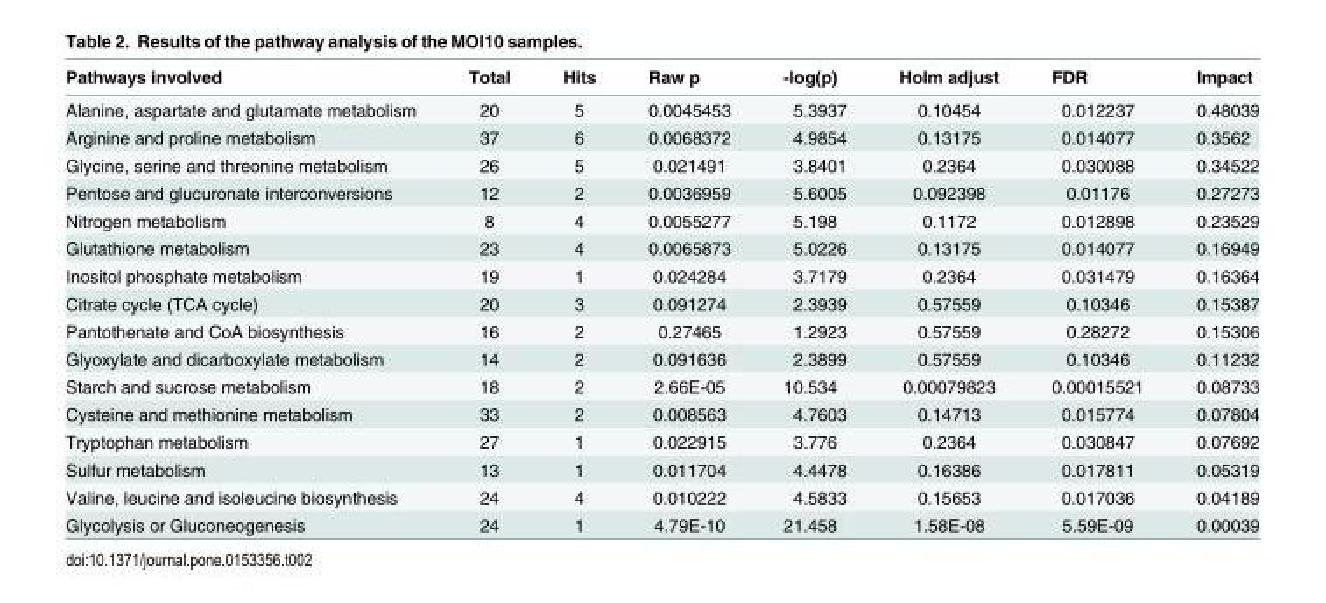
<table><thead><tr><td>Pathways involved</td><td>Total</td><td>Hits</td><td>Raw p</td><td>-log(p)</td><td>Holm adjust</td><td>FDR</td><td>Impact</td></tr></thead><tbody><tr><td>Alanine, aspartate and glutamate metabolism</td><td>20</td><td>5</td><td>0.0045453</td><td>5.3937</td><td>0.10454</td><td>0.012237</td><td>0.48039</td></tr><tr><td>Arginine and proline metabolism</td><td>37</td><td>6</td><td>0.0068372</td><td>4.9854</td><td>0.13175</td><td>0.014077</td><td>0.3562</td></tr><tr><td>Glycine, serine and threonine metabolism</td><td>26</td><td>5</td><td>0.021491</td><td>3.8401</td><td>0.2364</td><td>0.030088</td><td>0.34522</td></tr><tr><td>Pentose and glucuronate interconversions</td><td>12</td><td>2</td><td>0.0036959</td><td>5.6005</td><td>0.092398</td><td>0.01176</td><td>0.27273</td></tr><tr><td>Nitrogen metabolism</td><td>8</td><td>4</td><td>0.0055277</td><td>5.198</td><td>0.1172</td><td>0.012898</td><td>0.23529</td></tr><tr><td>Glutathione metabolism</td><td>23</td><td>4</td><td>0.0065873</td><td>5.0226</td><td>0.13175</td><td>0.014077</td><td>0.16949</td></tr><tr><td>Inositol phosphate metabolism</td><td>19</td><td>1</td><td>0.024284</td><td>3.7179</td><td>0.2364</td><td>0.031479</td><td>0.16364</td></tr><tr><td>Citrate cycle (TCA cycle)</td><td>20</td><td>3</td><td>0.091274</td><td>2.3939</td><td>0.57559</td><td>0.10346</td><td>0.15387</td></tr><tr><td>Pantothenate and CoA biosynthesis</td><td>16</td><td>2</td><td>0.27465</td><td>1.2923</td><td>0.57559</td><td>0.28272</td><td>0.15306</td></tr><tr><td>Glyoxylate and dicarboxylate metabolism</td><td>14</td><td>2</td><td>0.091636</td><td>2.3899</td><td>0.57559</td><td>0.10346</td><td>0.11232</td></tr><tr><td>Starch and sucrose metabolism</td><td>18</td><td>2</td><td>2.66E-05</td><td>10.534</td><td>0.00079823</td><td>0.00015521</td><td>0.08733</td></tr><tr><td>Cysteine and methionine metabolism</td><td>33</td><td>2</td><td>0.008563</td><td>4.7603</td><td>0.14713</td><td>0.015774</td><td>0.07804</td></tr><tr><td>Tryptophan metabolism</td><td>27</td><td>1</td><td>0.022915</td><td>3.776</td><td>0.2364</td><td>0.030847</td><td>0.07692</td></tr><tr><td>Sulfur metabolism</td><td>13</td><td>1</td><td>0.011704</td><td>4.4478</td><td>0.16386</td><td>0.017811</td><td>0.05319</td></tr><tr><td>Valine, leucine and isoleucine biosynthesis</td><td>24</td><td>4</td><td>0.010222</td><td>4.5833</td><td>0.15653</td><td>0.017036</td><td>0.04189</td></tr><tr><td>Glycolysis or Gluconeogenesis</td><td>24</td><td>1</td><td>4.79E-10</td><td>21.458</td><td>1.58E-08</td><td>5.59E-09</td><td>0.00039</td></tr></tbody></table>